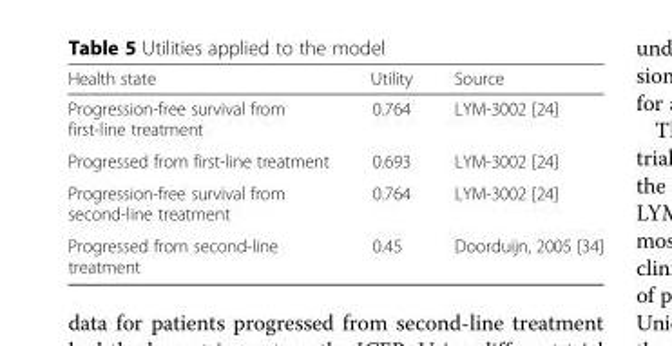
<table><thead><tr><td>Health state</td><td>Utility</td><td>Source</td></tr></thead><tbody><tr><td>Progression-free survival from first-line treatment</td><td>0.764</td><td>LYM-3002 [24]</td></tr><tr><td>Progressed from first-line treatment</td><td>0.693</td><td>LYM-3002 [24]</td></tr><tr><td>Progression-free survival from second-line treatment</td><td>0.764</td><td>LYM-3002 [24]</td></tr><tr><td>Progressed from second-line treatment</td><td>0.45</td><td>Doorduijn, 2005 [34]</td></tr></tbody></table>